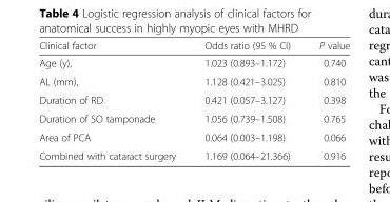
<table><thead><tr><td>Clinical factor</td><td>Odds ratio (95 % CI)</td><td>P value</td></tr></thead><tbody><tr><td>Age (y),</td><td>1.023 (0.893–1.172)</td><td>0.740</td></tr><tr><td>AL (mm),</td><td>1.128 (0.421–3.025)</td><td>0.810</td></tr><tr><td>Duration of RD</td><td>0.421 (0.057–3.127)</td><td>0.398</td></tr><tr><td>Duration of SO tamponade</td><td>1.056 (0.739–1.508)</td><td>0.765</td></tr><tr><td>Area of PCA</td><td>0.064 (0.003–1.198)</td><td>0.066</td></tr><tr><td>Combined with cataract surgery</td><td>1.169 (0.064–21.366)</td><td>0.916</td></tr></tbody></table>